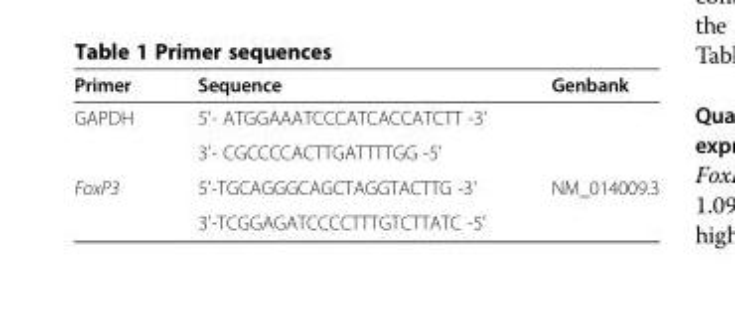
<table><thead><tr><td>Primer</td><td>Sequence</td><td>Genbank</td></tr></thead><tbody><tr><td rowspan="2">GAPDH</td><td>5&#x27;- ATGGAAATCCCATCACCATCTT -3&#x27;</td><td></td></tr><tr><td>3&#x27;- CGCCCCACTTGATTTTGG -5&#x27;</td><td></td></tr><tr><td rowspan="2">FoxP3</td><td>5&#x27;-TGCAGGGCAGCTAGGTACTTG -3&#x27;</td><td>NM_014009.3</td></tr><tr><td>3&#x27;-TCGGAGATCCCCTTTGTCTTATC -5&#x27;</td><td></td></tr></tbody></table>